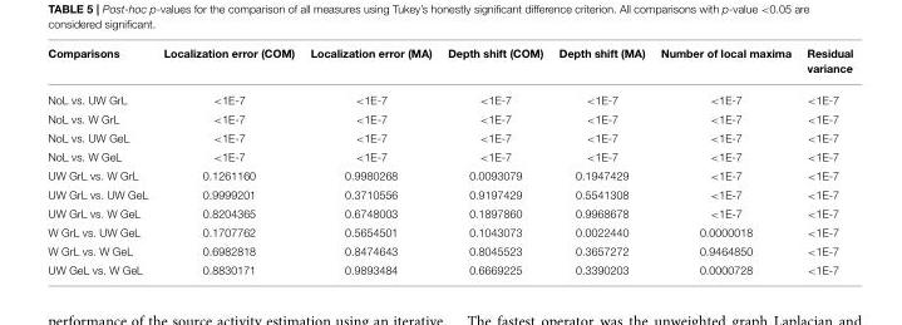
<table><thead><tr><td>Comparisons</td><td>Localization error (COM)</td><td>Localization error (MA)</td><td>Depth shift (COM)</td><td>Depth shift (MA)</td><td>Number of local maxima</td><td>Residual variance</td></tr></thead><tbody><tr><td>NoL vs. UW GrL</td><td>&lt;1E-7</td><td>&lt;1E-7</td><td>&lt;1E-7</td><td>&lt;1E-7</td><td>&lt;1E-7</td><td>&lt;1E-7</td></tr><tr><td>NoL vs. W GrL</td><td>&lt;1E-7</td><td>&lt;1E-7</td><td>&lt;1E-7</td><td>&lt;1E-7</td><td>&lt;1E-7</td><td>&lt;1E-7</td></tr><tr><td>NoL vs. UW GeL</td><td>&lt;1E-7</td><td>&lt;1E-7</td><td>&lt;1E-7</td><td>&lt;1E-7</td><td>&lt;1E-7</td><td>&lt;1E-7</td></tr><tr><td>NoL vs. W GeL</td><td>&lt;1E-7</td><td>&lt;1E-7</td><td>&lt;1E-7</td><td>&lt;1E-7</td><td>&lt;1E-7</td><td>&lt;1E-7</td></tr><tr><td>UW GrL vs. W GrL</td><td>0.1261160</td><td>0.9980268</td><td>0.0093079</td><td>0.1947429</td><td>&lt;1E-7</td><td>&lt;1E-7</td></tr><tr><td>UW GrL vs. UW GeL</td><td>0.9999201</td><td>0.3710556</td><td>0.9197429</td><td>0.5541308</td><td>&lt;1E-7</td><td>&lt;1E-7</td></tr><tr><td>UW GrL vs. W GeL</td><td>0.8204365</td><td>0.6748003</td><td>0.1897860</td><td>0.9968678</td><td>&lt;1E-7</td><td>&lt;1E-7</td></tr><tr><td>W GrL vs. UW GeL</td><td>0.1707762</td><td>0.5654501</td><td>0.1043073</td><td>0.0022440</td><td>0.0000018</td><td>&lt;1E-7</td></tr><tr><td>W GrL vs. W GeL</td><td>0.6982818</td><td>0.8474643</td><td>0.8045523</td><td>0.3657272</td><td>0.9464850</td><td>&lt;1E-7</td></tr><tr><td>UW GeL vs. W GeL</td><td>0.8830171</td><td>0.9893484</td><td>0.6669225</td><td>0.3390203</td><td>0.0000728</td><td>&lt;1E-7</td></tr></tbody></table>